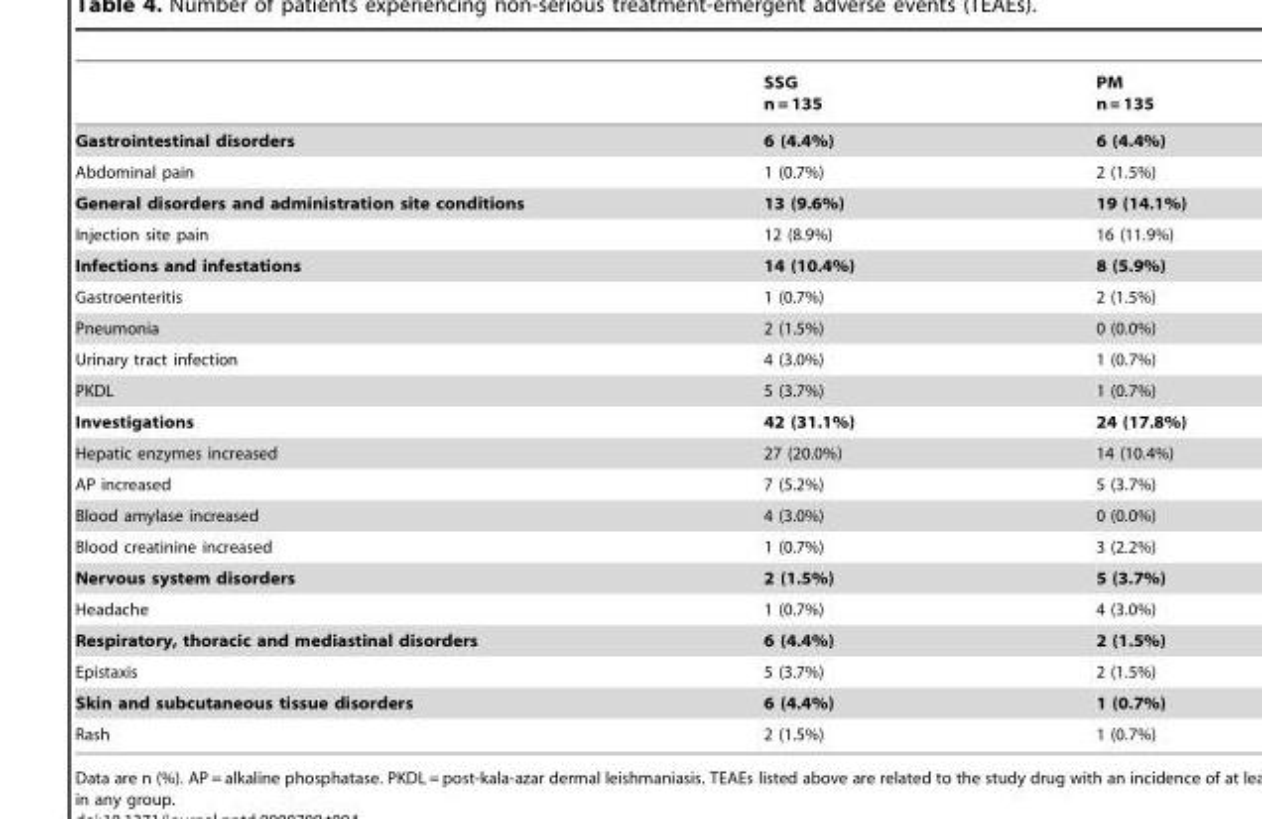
<table><thead><tr><td></td><td>SSG n = 135</td><td>PM n = 135</td></tr></thead><tbody><tr><td>Gastrointestinal disorders</td><td>6 (4.4%)</td><td>6 (4.4%)</td></tr><tr><td>Abdominal pain</td><td>1 (0.7%)</td><td>2 (1.5%)</td></tr><tr><td>General disorders and administration site conditions</td><td>13 (9.6%)</td><td>19 (14.1%)</td></tr><tr><td>Injection site pain</td><td>12 (8.9%)</td><td>16 (11.9%)</td></tr><tr><td>Infections and infestations</td><td>14 (10.4%)</td><td>8 (5.9%)</td></tr><tr><td>Gastroenteritis</td><td>1 (0.7%)</td><td>2 (1.5%)</td></tr><tr><td>Pneumonia</td><td>2 (1.5%)</td><td>0 (0.0%)</td></tr><tr><td>Urinary tract infection</td><td>4 (3.0%)</td><td>1 (0.7%)</td></tr><tr><td>PKDL</td><td>5 (3.7%)</td><td>1 (0.7%)</td></tr><tr><td>Investigations</td><td>42 (31.1%)</td><td>24 (17.8%)</td></tr><tr><td>Hepatic enzymes increased</td><td>27 (20.0%)</td><td>14 (10.4%)</td></tr><tr><td>AP increased</td><td>7 (5.2%)</td><td>5 (3.7%)</td></tr><tr><td>Blood amylase increased</td><td>4 (3.0%)</td><td>0 (0.0%)</td></tr><tr><td>Blood creatinine increased</td><td>1 (0.7%)</td><td>3 (2.2%)</td></tr><tr><td>Nervous system disorders</td><td>2 (1.5%)</td><td>5 (3.7%)</td></tr><tr><td>Headache</td><td>1 (0.7%)</td><td>4 (3.0%)</td></tr><tr><td>Respiratory, thoracic and mediastinal disorders</td><td>6 (4.4%)</td><td>2 (1.5%)</td></tr><tr><td>Epistaxis</td><td>5 (3.7%)</td><td>2 (1.5%)</td></tr><tr><td>Skin and subcutaneous tissue disorders</td><td>6 (4.4%)</td><td>1 (0.7%)</td></tr><tr><td>Rash</td><td>2 (1.5%)</td><td>1 (0.7%)</td></tr></tbody></table>